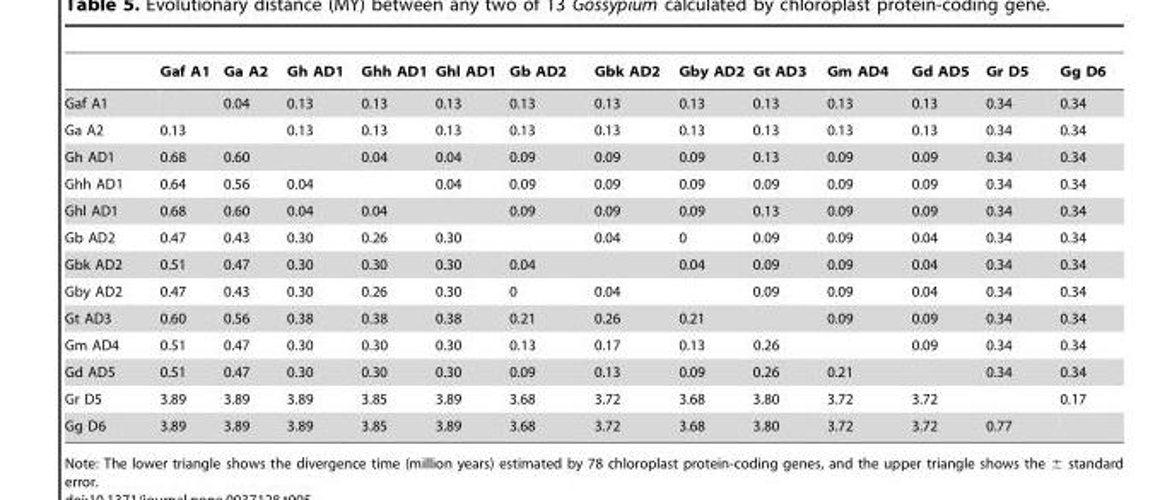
<table><thead><tr><td></td><td>Gaf A1</td><td>Ga A2</td><td>Gh AD1</td><td>Ghh AD1</td><td>Ghl AD1</td><td>Gb AD2</td><td>Gbk AD2</td><td>Gby AD2</td><td>Gt AD3</td><td>Gm AD4</td><td>Gd AD5</td><td>Gr D5</td><td>Gg D6</td></tr></thead><tbody><tr><td>Gaf A1</td><td></td><td>0.04</td><td>0.13</td><td>0.13</td><td>0.13</td><td>0.13</td><td>0.13</td><td>0.13</td><td>0.13</td><td>0.13</td><td>0.13</td><td>0.34</td><td>0.34</td></tr><tr><td>Ga A2</td><td>0.13</td><td></td><td>0.13</td><td>0.13</td><td>0.13</td><td>0.13</td><td>0.13</td><td>0.13</td><td>0.13</td><td>0.13</td><td>0.13</td><td>0.34</td><td>0.34</td></tr><tr><td>Gh AD1</td><td>0.68</td><td>0.60</td><td></td><td>0.04</td><td>0.04</td><td>0.09</td><td>0.09</td><td>0.09</td><td>0.13</td><td>0.09</td><td>0.09</td><td>0.34</td><td>0.34</td></tr><tr><td>Ghh AD1</td><td>0.64</td><td>0.56</td><td>0.04</td><td></td><td>0.04</td><td>0.09</td><td>0.09</td><td>0.09</td><td>0.09</td><td>0.09</td><td>0.09</td><td>0.34</td><td>0.34</td></tr><tr><td>Ghl AD1</td><td>0.68</td><td>0.60</td><td>0.04</td><td>0.04</td><td></td><td>0.09</td><td>0.09</td><td>0.09</td><td>0.13</td><td>0.09</td><td>0.09</td><td>0.34</td><td>0.34</td></tr><tr><td>Gb AD2</td><td>0.47</td><td>0.43</td><td>0.30</td><td>0.26</td><td>0.30</td><td></td><td>0.04</td><td>0</td><td>0.09</td><td>0.09</td><td>0.04</td><td>0.34</td><td>0.34</td></tr><tr><td>Gbk AD2</td><td>0.51</td><td>0.47</td><td>0.30</td><td>0.30</td><td>0.30</td><td>0.04</td><td></td><td>0.04</td><td>0.09</td><td>0.09</td><td>0.04</td><td>0.34</td><td>0.34</td></tr><tr><td>Gby AD2</td><td>0.47</td><td>0.43</td><td>0.30</td><td>0.26</td><td>0.30</td><td>0</td><td>0.04</td><td></td><td>0.09</td><td>0.09</td><td>0.04</td><td>0.34</td><td>0.34</td></tr><tr><td>Gt AD3</td><td>0.60</td><td>0.56</td><td>0.38</td><td>0.38</td><td>0.38</td><td>0.21</td><td>0.26</td><td>0.21</td><td></td><td>0.09</td><td>0.09</td><td>0.34</td><td>0.34</td></tr><tr><td>Gm AD4</td><td>0.51</td><td>0.47</td><td>0.30</td><td>0.30</td><td>0.30</td><td>0.13</td><td>0.17</td><td>0.13</td><td>0.26</td><td></td><td>0.09</td><td>0.34</td><td>0.34</td></tr><tr><td>Gd AD5</td><td>0.51</td><td>0.47</td><td>0.30</td><td>0.30</td><td>0.30</td><td>0.09</td><td>0.13</td><td>0.09</td><td>0.26</td><td>0.21</td><td></td><td>0.34</td><td>0.34</td></tr><tr><td>Gr D5</td><td>3.89</td><td>3.89</td><td>3.89</td><td>3.85</td><td>3.89</td><td>3.68</td><td>3.72</td><td>3.68</td><td>3.80</td><td>3.72</td><td>3.72</td><td></td><td>0.17</td></tr><tr><td>Gg D6</td><td>3.89</td><td>3.89</td><td>3.89</td><td>3.85</td><td>3.89</td><td>3.68</td><td>3.72</td><td>3.68</td><td>3.80</td><td>3.72</td><td>3.72</td><td>0.77</td><td></td></tr></tbody></table>